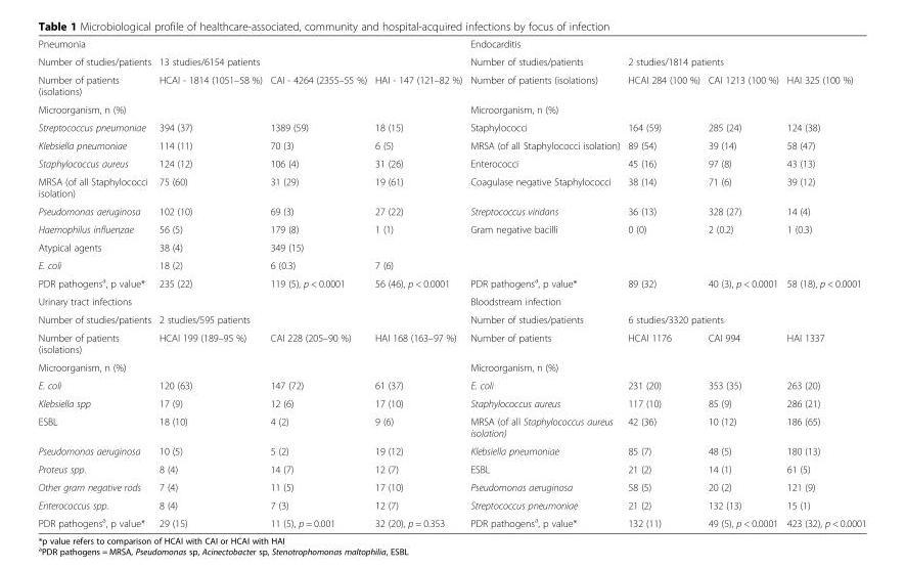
<table><tbody><tr><td colspan="4">Pneumonia</td><td colspan="4">Endocarditis</td></tr><tr><td>Number of studies/patients</td><td colspan="3">13 studies/6154 patients</td><td>Number of studies/patients</td><td colspan="3">2 studies/1814 patients</td></tr><tr><td>Number of patients (isolations)</td><td>HCAI - 1814 (1051–58 %)</td><td>CAI - 4264 (2355–55 %)</td><td>HAI - 147 (121–82 %)</td><td>Number of patients (isolations)</td><td>HCAI 284 (100 %)</td><td>CAI 1213 (100 %)</td><td>HAI 325 (100 %)</td></tr><tr><td colspan="4">Microorganism, n (%)</td><td colspan="4">Microorganism, n (%)</td></tr><tr><td>Streptococcus pneumoniae</td><td>394 (37)</td><td>1389 (59)</td><td>18 (15)</td><td>Staphylococci</td><td>164 (59)</td><td>285 (24)</td><td>124 (38)</td></tr><tr><td>Klebsiella pneumoniae</td><td>114 (11)</td><td>70 (3)</td><td>6 (5)</td><td>MRSA (of all Staphylococci isolation)</td><td>89 (54)</td><td>39 (14)</td><td>58 (47)</td></tr><tr><td>Staphylococcus aureus</td><td>124 (12)</td><td>106 (4)</td><td>31 (26)</td><td>Enterococci</td><td>45 (16)</td><td>97 (8)</td><td>43 (13)</td></tr><tr><td>MRSA (of all Staphylococci isolation)</td><td>75 (60)</td><td>31 (29)</td><td>19 (61)</td><td>Coagulase negative Staphylococci</td><td>38 (14)</td><td>71 (6)</td><td>39 (12)</td></tr><tr><td>Pseudomonas aeruginosa</td><td>102 (10)</td><td>69 (3)</td><td>27 (22)</td><td>Streptococcus viridans</td><td>36 (13)</td><td>328 (27)</td><td>14 (4)</td></tr><tr><td>Haemophilus influenzae</td><td>56 (5)</td><td>179 (8)</td><td>1 (1)</td><td>Gram negative bacilli</td><td>0 (0)</td><td>2 (0.2)</td><td>1 (0.3)</td></tr><tr><td>Atypical agents</td><td>38 (4)</td><td>349 (15)</td><td></td><td></td><td></td><td></td><td></td></tr><tr><td>E. coli</td><td>18 (2)</td><td>6 (0.3)</td><td>7 (6)</td><td></td><td></td><td></td><td></td></tr><tr><td>PDR pathogens<sup>a</sup>, p value*</td><td>235 (22)</td><td>119 (5), p &lt; 0.0001</td><td>56 (46), p &lt; 0.0001</td><td>PDR pathogens<sup>a</sup>, p value*</td><td>89 (32)</td><td>40 (3), p &lt; 0.0001</td><td>58 (18), p &lt; 0.0001</td></tr><tr><td colspan="4">Urinary tract infections</td><td colspan="4">Bloodstream infection</td></tr><tr><td>Number of studies/patients</td><td colspan="3">2 studies/595 patients</td><td>Number of studies/patients</td><td colspan="3">6 studies/3320 patients</td></tr><tr><td>Number of patients (isolations)</td><td>HCAI 199 (189–95 %)</td><td>CAI 228 (205–90 %)</td><td>HAI 168 (163–97 %)</td><td>Number of patients</td><td>HCAI 1176</td><td>CAI 994</td><td>HAI 1337</td></tr><tr><td colspan="4">Microorganism, n (%)</td><td colspan="4">Microorganism, n (%)</td></tr><tr><td>E. coli</td><td>120 (63)</td><td>147 (72)</td><td>61 (37)</td><td>E. coli</td><td>231 (20)</td><td>353 (35)</td><td>263 (20)</td></tr><tr><td>Klebsiella spp</td><td>17 (9)</td><td>12 (6)</td><td>17 (10)</td><td>Staphylococcus aureus</td><td>117 (10)</td><td>85 (9)</td><td>286 (21)</td></tr><tr><td>ESBL</td><td>18 (10)</td><td>4 (2)</td><td>9 (6)</td><td>MRSA (of all Staphylococcus aureus isolation)</td><td>42 (36)</td><td>10 (12)</td><td>186 (65)</td></tr><tr><td>Pseudomonas aeruginosa</td><td>10 (5)</td><td>5 (2)</td><td>19 (12)</td><td>Klebsiella pneumoniae</td><td>85 (7)</td><td>48 (5)</td><td>180 (13)</td></tr><tr><td>Proteus spp.</td><td>8 (4)</td><td>14 (7)</td><td>12 (7)</td><td>ESBL</td><td>21 (2)</td><td>14 (1)</td><td>61 (5)</td></tr><tr><td>Other gram negative rods</td><td>7 (4)</td><td>11 (5)</td><td>17 (10)</td><td>Pseudomonas aeruginosa</td><td>58 (5)</td><td>20 (2)</td><td>121 (9)</td></tr><tr><td>Enterococcus spp.</td><td>8 (4)</td><td>7 (3)</td><td>12 (7)</td><td>Streptococcus pneumoniae</td><td>21 (2)</td><td>132 (13)</td><td>15 (1)</td></tr><tr><td>PDR pathogens<sup>a</sup>, p value*</td><td>29 (15)</td><td>11 (5), p = 0.001</td><td>32 (20), p = 0.353</td><td>PDR pathogens<sup>a</sup>, p value*</td><td>132 (11)</td><td>49 (5), p &lt; 0.0001</td><td>423 (32), p &lt; 0.0001</td></tr></tbody></table>